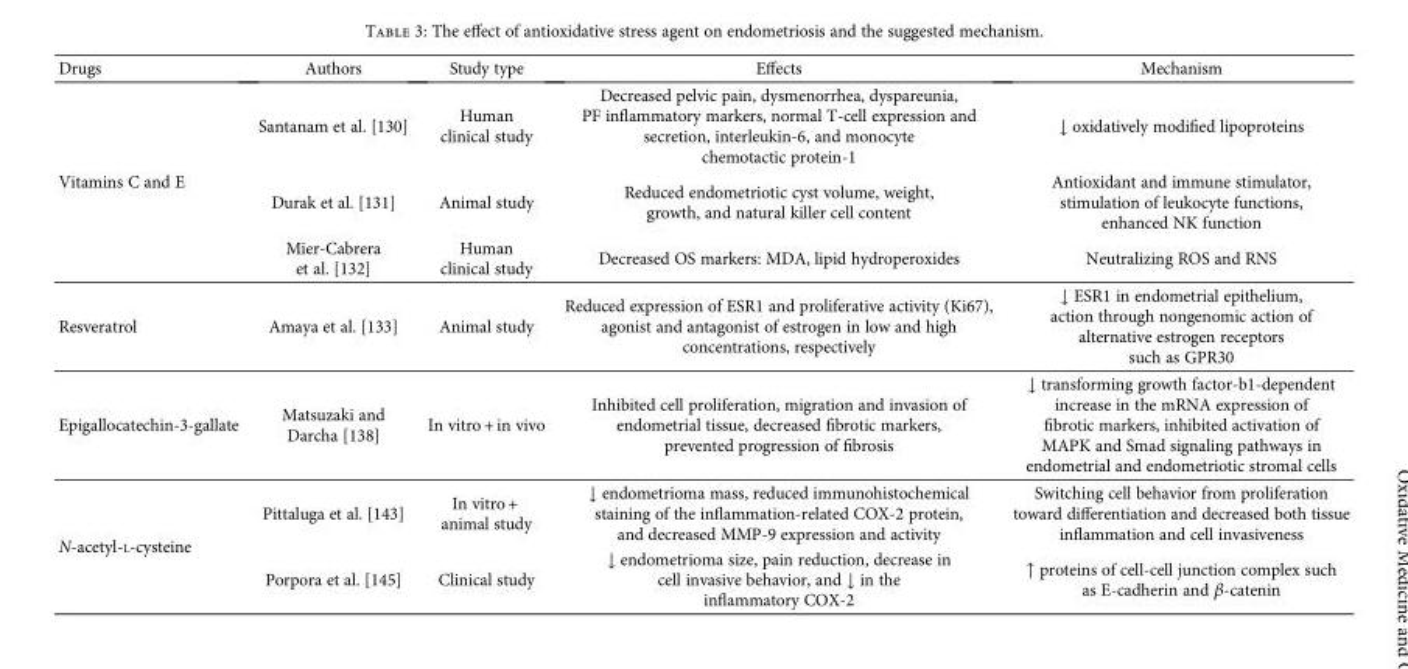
<table><thead><tr><td>Drugs</td><td>Authors</td><td>Study type</td><td>Effects</td><td>Mechanism</td></tr></thead><tbody><tr><td rowspan="3">Vitamins C and E</td><td>Santanam et al. [130]</td><td>Human clinical study</td><td>Decreased pelvic pain, dysmenorrhea, dyspareunia, PF inflammatory markers, normal T-cell expression and secretion, interleukin-6, and monocyte chemotactic protein-1</td><td>↓ oxidatively modified lipoproteins</td></tr><tr><td>Durak et al. [131]</td><td>Animal study</td><td>Reduced endometriotic cyst volume, weight, growth, and natural killer cell content</td><td>Antioxidant and immune stimulator, stimulation of leukocyte functions, enhanced NK function</td></tr><tr><td>Mier-Cabrera et al. [132]</td><td>Human clinical study</td><td>Decreased OS markers: MDA, lipid hydroperoxides</td><td>Neutralizing ROS and RNS</td></tr><tr><td>Resveratrol</td><td>Amaya et al. [133]</td><td>Animal study</td><td>Reduced expression of ESR1 and proliferative activity (Ki67), agonist and antagonist of estrogen in low and high concentrations, respectively</td><td>↓ ESR1 in endometrial epithelium, action through nongenomic action of alternative estrogen receptors such as GPR30</td></tr><tr><td>Epigallocatechin-3-gallate</td><td>Matsuzaki and Darcha [138]</td><td>In vitro + in vivo</td><td>Inhibited cell proliferation, migration and invasion of endometrial tissue, decreased fibrotic markers, prevented progression of fibrosis</td><td>↓ transforming growth factor-b1-dependent increase in the mRNA expression of fibrotic markers, inhibited activation of MAPK and Smad signaling pathways in endometrial and endometriotic stromal cells</td></tr><tr><td rowspan="2">N-acetyl-L-cysteine</td><td>Pittaluga et al. [143]</td><td>In vitro + animal study</td><td>↓ endometrioma mass, reduced immunohistochemical staining of the inflammation-related COX-2 protein, and decreased MMP-9 expression and activity</td><td>Switching cell behavior from proliferation toward differentiation and decreased both tissue inflammation and cell invasiveness</td></tr><tr><td>Porpora et al. [145]</td><td>Clinical study</td><td>↓ endometrioma size, pain reduction, decrease in cell invasive behavior, and ↓ in the inflammatory COX-2</td><td>↑ proteins of cell-cell junction complex such as E-cadherin and β-catenin</td></tr></tbody></table>